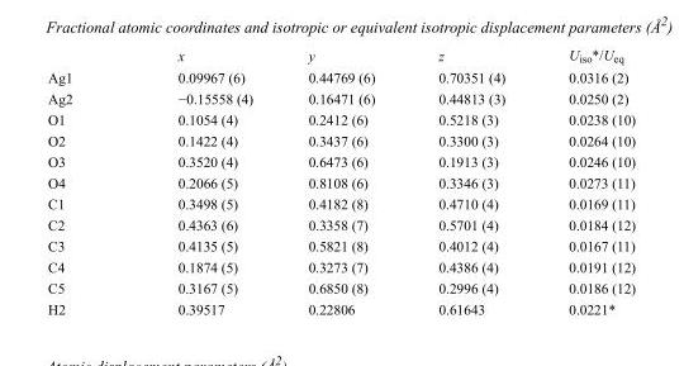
<table><thead><tr><td></td><td>x</td><td>y</td><td>z</td><td>U<sub>iso</sub>*/U<sub>eq</sub></td></tr></thead><tbody><tr><td>Ag1</td><td>0.09967 (6)</td><td>0.44769 (6)</td><td>0.70351 (4)</td><td>0.0316 (2)</td></tr><tr><td>Ag2</td><td>−0.15558 (4)</td><td>0.16471 (6)</td><td>0.44813 (3)</td><td>0.0250 (2)</td></tr><tr><td>O1</td><td>0.1054 (4)</td><td>0.2412 (6)</td><td>0.5218 (3)</td><td>0.0238 (10)</td></tr><tr><td>O2</td><td>0.1422 (4)</td><td>0.3437 (6)</td><td>0.3300 (3)</td><td>0.0264 (10)</td></tr><tr><td>O3</td><td>0.3520 (4)</td><td>0.6473 (6)</td><td>0.1913 (3)</td><td>0.0246 (10)</td></tr><tr><td>O4</td><td>0.2066 (5)</td><td>0.8108 (6)</td><td>0.3346 (3)</td><td>0.0273 (11)</td></tr><tr><td>C1</td><td>0.3498 (5)</td><td>0.4182 (8)</td><td>0.4710 (4)</td><td>0.0169 (11)</td></tr><tr><td>C2</td><td>0.4363 (6)</td><td>0.3358 (7)</td><td>0.5701 (4)</td><td>0.0184 (12)</td></tr><tr><td>C3</td><td>0.4135 (5)</td><td>0.5821 (8)</td><td>0.4012 (4)</td><td>0.0167 (11)</td></tr><tr><td>C4</td><td>0.1874 (5)</td><td>0.3273 (7)</td><td>0.4386 (4)</td><td>0.0191 (12)</td></tr><tr><td>C5</td><td>0.3167 (5)</td><td>0.6850 (8)</td><td>0.2996 (4)</td><td>0.0186 (12)</td></tr><tr><td>H2</td><td>0.39517</td><td>0.22806</td><td>0.61643</td><td>0.0221*</td></tr></tbody></table>